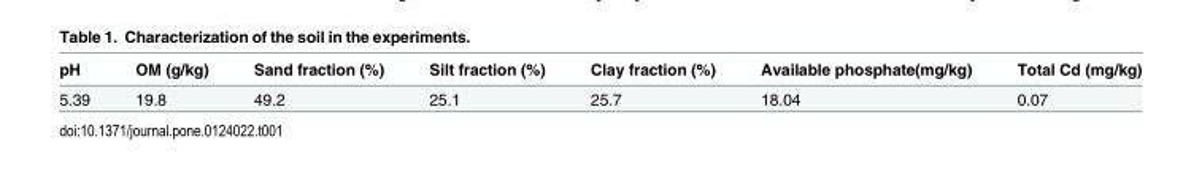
<table><thead><tr><td>pH</td><td>OM (g/kg)</td><td>Sand fraction (%)</td><td>Silt fraction (%)</td><td>Clay fraction (%)</td><td>Available phosphate(mg/kg)</td><td>Total Cd (mg/kg)</td></tr></thead><tbody><tr><td>5.39</td><td>19.8</td><td>49.2</td><td>25.1</td><td>25.7</td><td>18.04</td><td>0.07</td></tr></tbody></table>